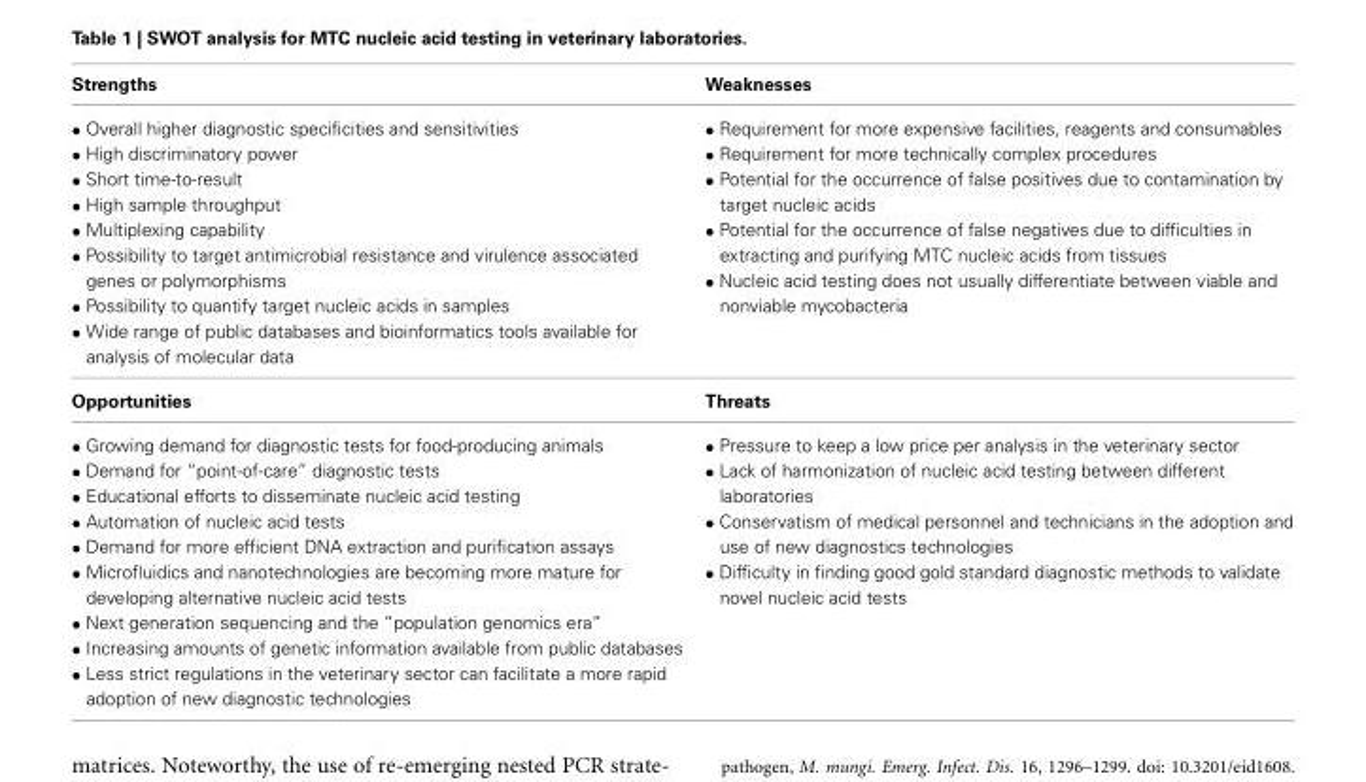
<table><thead><tr><td>Strengths</td><td>Weaknesses</td></tr></thead><tbody><tr><td>• Overall higher diagnostic specificities and sensitivities • High discriminatory power • Short time-to-result • High sample throughput • Multiplexing capability • Possibility to target antimicrobial resistance and virulence associated genes or polymorphisms • Possibility to quantify target nucleic acids in samples • Wide range of public databases and bioinformatics tools available for analysis of molecular data</td><td>• Requirement for more expensive facilities, reagents and consumables • Requirement for more technically complex procedures • Potential for the occurrence of false positives due to contamination by target nucleic acids • Potential for the occurrence of false negatives due to difficulties in extracting and purifying MTC nucleic acids from tissues • Nucleic acid testing does not usually differentiate between viable and nonviable mycobacteria</td></tr><tr><td>Opportunities</td><td>Threats</td></tr><tr><td>• Growing demand for diagnostic tests for food-producing animals • Demand for “point-of-care” diagnostic tests • Educational efforts to disseminate nucleic acid testing • Automation of nucleic acid tests • Demand for more efficient DNA extraction and purification assays • Microfluidics and nanotechnologies are becoming more mature for developing alternative nucleic acid tests • Next generation sequencing and the “population genomics era” • Increasing amounts of genetic information available from public databases • Less strict regulations in the veterinary sector can facilitate a more rapid adoption of new diagnostic technologies</td><td>• Pressure to keep a low price per analysis in the veterinary sector • Lack of harmonization of nucleic acid testing between different laboratories • Conservatism of medical personnel and technicians in the adoption and use of new diagnostics technologies • Difficulty in finding good gold standard diagnostic methods to validate novel nucleic acid tests</td></tr></tbody></table>